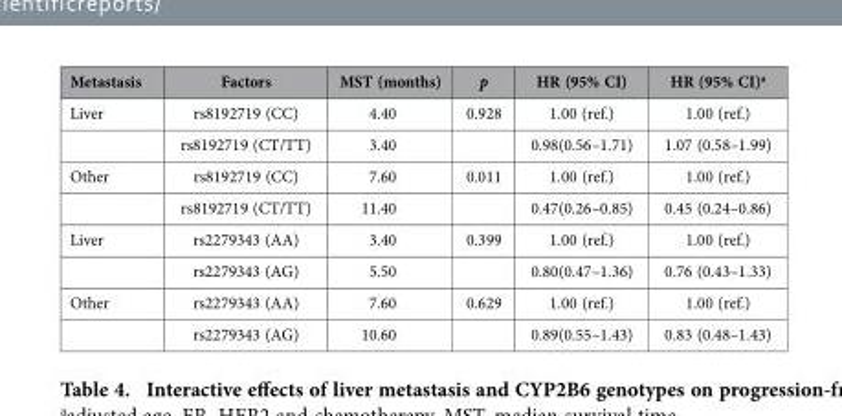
<table><thead><tr><td>Metastasis</td><td>Factors</td><td>MST (months)</td><td>p</td><td>HR (95% CI)</td><td>HR (95% CI)<sup>a</sup></td></tr></thead><tbody><tr><td rowspan="2">Liver</td><td>rs8192719 (CC)</td><td>4.40</td><td>0.928</td><td>1.00 (ref.)</td><td>1.00 (ref.)</td></tr><tr><td>rs8192719 (CT/TT)</td><td>3.40</td><td></td><td>0.98(0.56–1.71)</td><td>1.07 (0.58–1.99)</td></tr><tr><td rowspan="2">Other</td><td>rs8192719 (CC)</td><td>7.60</td><td>0.011</td><td>1.00 (ref.)</td><td>1.00 (ref.)</td></tr><tr><td>rs8192719 (CT/TT)</td><td>11.40</td><td></td><td>0.47(0.26–0.85)</td><td>0.45 (0.24–0.86)</td></tr><tr><td rowspan="2">Liver</td><td>rs2279343 (AA)</td><td>3.40</td><td>0.399</td><td>1.00 (ref.)</td><td>1.00 (ref.)</td></tr><tr><td>rs2279343 (AG)</td><td>5.50</td><td></td><td>0.80(0.47–1.36)</td><td>0.76 (0.43–1.33)</td></tr><tr><td rowspan="2">Other</td><td>rs2279343 (AA)</td><td>7.60</td><td>0.629</td><td>1.00 (ref.)</td><td>1.00 (ref.)</td></tr><tr><td>rs2279343 (AG)</td><td>10.60</td><td></td><td>0.89(0.55–1.43)</td><td>0.83 (0.48–1.43)</td></tr></tbody></table>